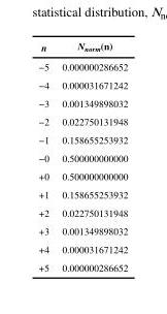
<table><thead><tr><td>n</td><td>N<sub>norm</sub>(n)</td></tr></thead><tbody><tr><td>−5</td><td>0.000000286652</td></tr><tr><td>−4</td><td>0.000031671242</td></tr><tr><td>−3</td><td>0.001349898032</td></tr><tr><td>−2</td><td>0.022750131948</td></tr><tr><td>−1</td><td>0.158655253932</td></tr><tr><td>−0</td><td>0.500000000000</td></tr><tr><td>+0</td><td>0.500000000000</td></tr><tr><td>+1</td><td>0.158655253932</td></tr><tr><td>+2</td><td>0.022750131948</td></tr><tr><td>+3</td><td>0.001349898032</td></tr><tr><td>+4</td><td>0.000031671242</td></tr><tr><td>+5</td><td>0.000000286652</td></tr></tbody></table>